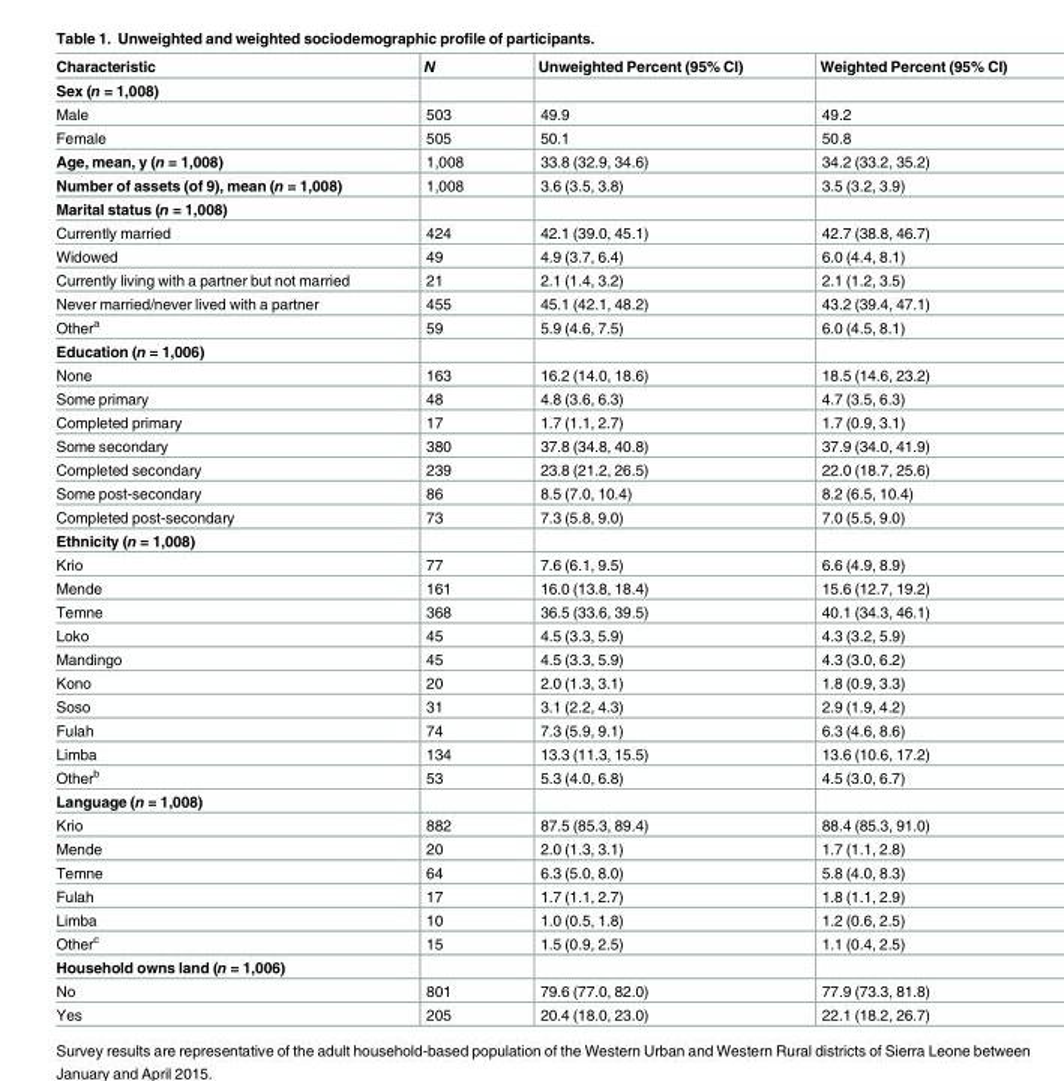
<table><thead><tr><td>Characteristic</td><td>N</td><td>Unweighted Percent (95% CI)</td><td>Weighted Percent (95% CI)</td></tr></thead><tbody><tr><td colspan="4">Sex (n = 1,008)</td></tr><tr><td>Male</td><td>503</td><td>49.9</td><td>49.2</td></tr><tr><td>Female</td><td>505</td><td>50.1</td><td>50.8</td></tr><tr><td>Age, mean, y (n = 1,008)</td><td>1,008</td><td>33.8 (32.9, 34.6)</td><td>34.2 (33.2, 35.2)</td></tr><tr><td>Number of assets (of 9), mean (n = 1,008)</td><td>1,008</td><td>3.6 (3.5, 3.8)</td><td>3.5 (3.2, 3.9)</td></tr><tr><td colspan="4">Marital status (n = 1,008)</td></tr><tr><td>Currently married</td><td>424</td><td>42.1 (39.0, 45.1)</td><td>42.7 (38.8, 46.7)</td></tr><tr><td>Widowed</td><td>49</td><td>4.9 (3.7, 6.4)</td><td>6.0 (4.4, 8.1)</td></tr><tr><td>Currently living with a partner but not married</td><td>21</td><td>2.1 (1.4, 3.2)</td><td>2.1 (1.2, 3.5)</td></tr><tr><td>Never married/never lived with a partner</td><td>455</td><td>45.1 (42.1, 48.2)</td><td>43.2 (39.4, 47.1)</td></tr><tr><td>Other<sup>a</sup></td><td>59</td><td>5.9 (4.6, 7.5)</td><td>6.0 (4.5, 8.1)</td></tr><tr><td colspan="4">Education (n = 1,006)</td></tr><tr><td>None</td><td>163</td><td>16.2 (14.0, 18.6)</td><td>18.5 (14.6, 23.2)</td></tr><tr><td>Some primary</td><td>48</td><td>4.8 (3.6, 6.3)</td><td>4.7 (3.5, 6.3)</td></tr><tr><td>Completed primary</td><td>17</td><td>1.7 (1.1, 2.7)</td><td>1.7 (0.9, 3.1)</td></tr><tr><td>Some secondary</td><td>380</td><td>37.8 (34.8, 40.8)</td><td>37.9 (34.0, 41.9)</td></tr><tr><td>Completed secondary</td><td>239</td><td>23.8 (21.2, 26.5)</td><td>22.0 (18.7, 25.6)</td></tr><tr><td>Some post-secondary</td><td>86</td><td>8.5 (7.0, 10.4)</td><td>8.2 (6.5, 10.4)</td></tr><tr><td>Completed post-secondary</td><td>73</td><td>7.3 (5.8, 9.0)</td><td>7.0 (5.5, 9.0)</td></tr><tr><td colspan="4">Ethnicity (n = 1,008)</td></tr><tr><td>Krio</td><td>77</td><td>7.6 (6.1, 9.5)</td><td>6.6 (4.9, 8.9)</td></tr><tr><td>Mende</td><td>161</td><td>16.0 (13.8, 18.4)</td><td>15.6 (12.7, 19.2)</td></tr><tr><td>Temne</td><td>368</td><td>36.5 (33.6, 39.5)</td><td>40.1 (34.3, 46.1)</td></tr><tr><td>Loko</td><td>45</td><td>4.5 (3.3, 5.9)</td><td>4.3 (3.2, 5.9)</td></tr><tr><td>Mandingo</td><td>45</td><td>4.5 (3.3, 5.9)</td><td>4.3 (3.0, 6.2)</td></tr><tr><td>Kono</td><td>20</td><td>2.0 (1.3, 3.1)</td><td>1.8 (0.9, 3.3)</td></tr><tr><td>Soso</td><td>31</td><td>3.1 (2.2, 4.3)</td><td>2.9 (1.9, 4.2)</td></tr><tr><td>Fulah</td><td>74</td><td>7.3 (5.9, 9.1)</td><td>6.3 (4.6, 8.6)</td></tr><tr><td>Limba</td><td>134</td><td>13.3 (11.3, 15.5)</td><td>13.6 (10.6, 17.2)</td></tr><tr><td>Other<sup>b</sup></td><td>53</td><td>5.3 (4.0, 6.8)</td><td>4.5 (3.0, 6.7)</td></tr><tr><td colspan="4">Language (n = 1,008)</td></tr><tr><td>Krio</td><td>882</td><td>87.5 (85.3, 89.4)</td><td>88.4 (85.3, 91.0)</td></tr><tr><td>Mende</td><td>20</td><td>2.0 (1.3, 3.1)</td><td>1.7 (1.1, 2.8)</td></tr><tr><td>Temne</td><td>64</td><td>6.3 (5.0, 8.0)</td><td>5.8 (4.0, 8.3)</td></tr><tr><td>Fulah</td><td>17</td><td>1.7 (1.1, 2.7)</td><td>1.8 (1.1, 2.9)</td></tr><tr><td>Limba</td><td>10</td><td>1.0 (0.5, 1.8)</td><td>1.2 (0.6, 2.5)</td></tr><tr><td>Other<sup>c</sup></td><td>15</td><td>1.5 (0.9, 2.5)</td><td>1.1 (0.4, 2.5)</td></tr><tr><td colspan="4">Household owns land (n = 1,006)</td></tr><tr><td>No</td><td>801</td><td>79.6 (77.0, 82.0)</td><td>77.9 (73.3, 81.8)</td></tr><tr><td>Yes</td><td>205</td><td>20.4 (18.0, 23.0)</td><td>22.1 (18.2, 26.7)</td></tr></tbody></table>